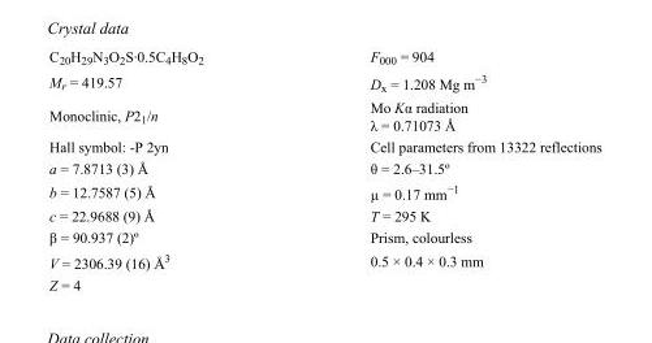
<table><tbody><tr><td>C<sub>20</sub>H<sub>29</sub>N<sub>3</sub>O<sub>2</sub>S·0.5C<sub>4</sub>H<sub>8</sub>O<sub>2</sub></td><td>F000 = 904</td></tr><tr><td>M<sub>r</sub> = 419.57</td><td>D<sub>x</sub> = 1.208 Mg m<sup>−3</sup></td></tr><tr><td>Monoclinic, P2<sub>1</sub>/n</td><td>Mo Kα radiation λ = 0.71073 Å</td></tr><tr><td>Hall symbol: -P 2yn</td><td>Cell parameters from 13322 reflections</td></tr><tr><td>a = 7.8713 (3) Å</td><td>θ = 2.6–31.5º</td></tr><tr><td>b = 12.7587 (5) Å</td><td>µ = 0.17 mm<sup>−1</sup></td></tr><tr><td>c = 22.9688 (9) Å</td><td>T = 295 K</td></tr><tr><td>β = 90.937 (2)º</td><td>Prism, colourless</td></tr><tr><td>V = 2306.39 (16) Å<sup>3</sup></td><td>0.5 × 0.4 × 0.3 mm</td></tr><tr><td>Z = 4</td><td></td></tr></tbody></table>